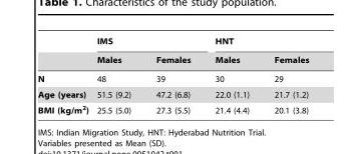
<table><thead><tr><td rowspan="2"></td><td colspan="2">IMS</td><td colspan="2">HNT</td></tr><tr><td>Males</td><td>Females</td><td>Males</td><td>Females</td></tr></thead><tbody><tr><td>N</td><td>48</td><td>39</td><td>30</td><td>29</td></tr><tr><td>Age (years)</td><td>51.5 (9.2)</td><td>47.2 (6.8)</td><td>22.0 (1.1)</td><td>21.7 (1.2)</td></tr><tr><td>BMI (kg/m<sup>2</sup>)</td><td>25.5 (5.0)</td><td>27.3 (5.5)</td><td>21.4 (4.4)</td><td>20.1 (3.8)</td></tr></tbody></table>